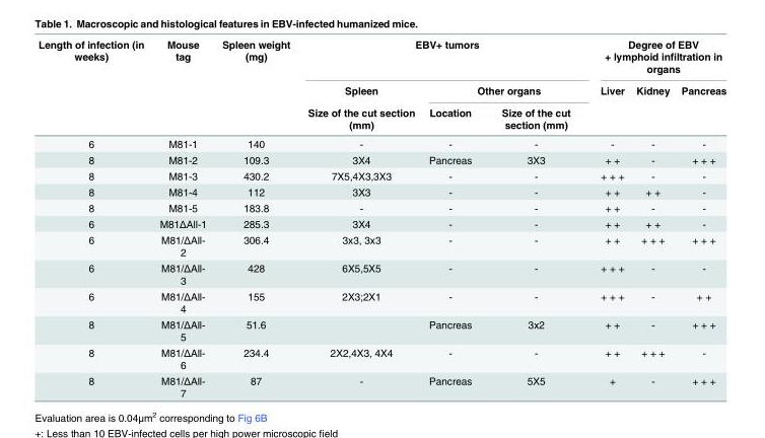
<table><thead><tr><td rowspan="3">Length of infection (in weeks)</td><td rowspan="3">Mouse tag</td><td rowspan="3">Spleen weight (mg)</td><td colspan="3">EBV+ tumors</td><td colspan="3">Degree of EBV + lymphoid infiltration in organs</td></tr><tr><td rowspan="2">Spleen Size of the cut section (mm)</td><td colspan="2">Other organs</td><td rowspan="2">Liver</td><td rowspan="2">Kidney</td><td rowspan="2">Pancreas</td></tr><tr><td>Location</td><td>Size of the cut section (mm)</td></tr></thead><tbody><tr><td>6</td><td>M81-1</td><td>140</td><td>-</td><td>-</td><td>-</td><td>-</td><td>-</td><td>-</td></tr><tr><td>8</td><td>M81-2</td><td>109.3</td><td>3X4</td><td>Pancreas</td><td>3X3</td><td>+ +</td><td>-</td><td>+ + +</td></tr><tr><td>8</td><td>M81-3</td><td>430.2</td><td>7X5,4X3,3X3</td><td>-</td><td>-</td><td>+ + +</td><td>-</td><td>-</td></tr><tr><td>8</td><td>M81-4</td><td>112</td><td>3X3</td><td>-</td><td>-</td><td>+ +</td><td>+ +</td><td>-</td></tr><tr><td>8</td><td>M81-5</td><td>183.8</td><td>-</td><td>-</td><td>-</td><td>+ +</td><td>-</td><td>-</td></tr><tr><td>6</td><td>M81ΔAll-1</td><td>285.3</td><td>3X4</td><td>-</td><td>-</td><td>+ +</td><td>+ +</td><td>-</td></tr><tr><td>6</td><td>M81/ΔAll- 2</td><td>306.4</td><td>3x3, 3x3</td><td>-</td><td>-</td><td>+ +</td><td>+ + +</td><td>+ + +</td></tr><tr><td>6</td><td>M81/ΔAll- 3</td><td>428</td><td>6X5,5X5</td><td>-</td><td>-</td><td>+ + +</td><td>-</td><td>-</td></tr><tr><td>6</td><td>M81/ΔAll- 4</td><td>155</td><td>2X3;2X1</td><td>-</td><td>-</td><td>+ + +</td><td>-</td><td>+ +</td></tr><tr><td>8</td><td>M81/ΔAll- 5</td><td>51.6</td><td></td><td>Pancreas</td><td>3x2</td><td>+ +</td><td>-</td><td>+ + +</td></tr><tr><td>8</td><td>M81/ΔAll- 6</td><td>234.4</td><td>2X2,4X3, 4X4</td><td>-</td><td>-</td><td>+ +</td><td>+ + +</td><td>-</td></tr><tr><td>8</td><td>M81/ΔAll- 7</td><td>87</td><td>-</td><td>Pancreas</td><td>5X5</td><td>+</td><td>-</td><td>+ + +</td></tr></tbody></table>